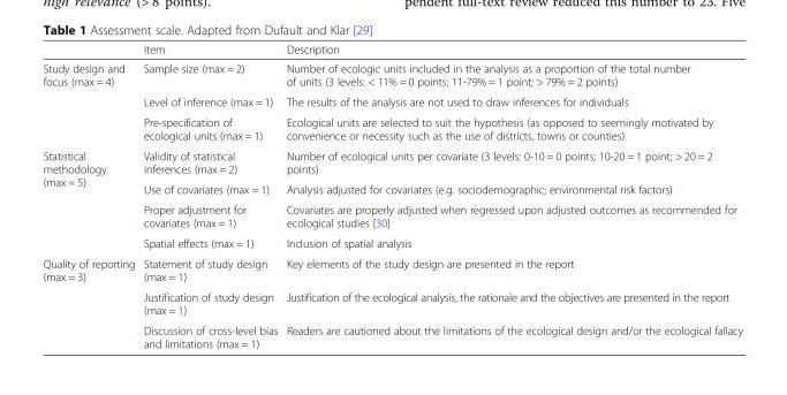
<table><thead><tr><td></td><td>Item</td><td>Description</td></tr></thead><tbody><tr><td rowspan="3">Study design and focus (max = 4)</td><td>Sample size (max = 2)</td><td>Number of ecologic units included in the analysis as a proportion of the total number of units (3 levels: &lt; 11% = 0 points; 11-79% = 1 point; &gt; 79% = 2 points)</td></tr><tr><td>Level of inference (max = 1)</td><td>The results of the analysis are not used to draw inferences for individuals</td></tr><tr><td>Pre-specification of ecological units (max = 1)</td><td>Ecological units are selected to suit the hypothesis (as opposed to seemingly motivated by convenience or necessity such as the use of districts, towns or counties)</td></tr><tr><td rowspan="4">Statistical methodology (max = 5)</td><td>Validity of statistical inferences (max = 2)</td><td>Number of ecological units per covariate (3 levels: 0-10 = 0 points; 10-20 = 1 point; &gt; 20 = 2 points)</td></tr><tr><td>Use of covariates (max = 1)</td><td>Analysis adjusted for covariates (e.g. sociodemographic; environmental risk factors)</td></tr><tr><td>Proper adjustment for covariates (max = 1)</td><td>Covariates are properly adjusted when regressed upon adjusted outcomes as recommended for ecological studies [30]</td></tr><tr><td>Spatial effects (max = 1)</td><td>Inclusion of spatial analysis</td></tr><tr><td rowspan="3">Quality of reporting (max = 3)</td><td>Statement of study design (max = 1)</td><td>Key elements of the study design are presented in the report</td></tr><tr><td>Justification of study design (max = 1)</td><td>Justification of the ecological analysis, the rationale and the objectives are presented in the report</td></tr><tr><td>Discussion of cross-level bias and limitations (max = 1)</td><td>Readers are cautioned about the limitations of the ecological design and/or the ecological fallacy</td></tr></tbody></table>